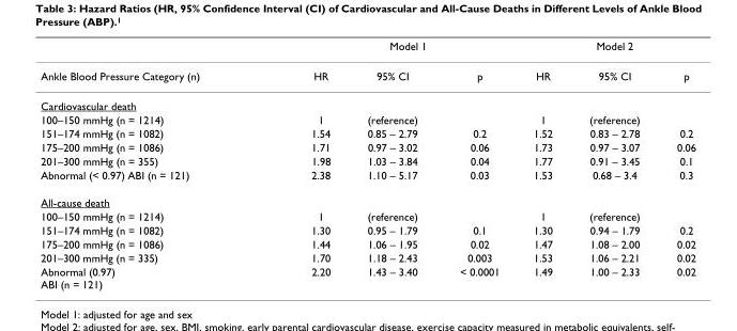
<table><thead><tr><td rowspan="2">Ankle Blood Pressure Category (n)</td><td colspan="3">Model 1</td><td colspan="3">Model 2</td></tr><tr><td>HR</td><td>95% CI</td><td>p</td><td>HR</td><td>95% CI</td><td>p</td></tr></thead><tbody><tr><td colspan="7">Cardiovascular death</td></tr><tr><td>100–150 mmHg (n = 1214)</td><td>1</td><td>(reference)</td><td></td><td>1</td><td>(reference)</td><td></td></tr><tr><td>151–174 mmHg (n = 1082)</td><td>1.54</td><td>0.85 – 2.79</td><td>0.2</td><td>1.52</td><td>0.83 – 2.78</td><td>0.2</td></tr><tr><td>175–200 mmHg (n = 1086)</td><td>1.71</td><td>0.97 – 3.02</td><td>0.06</td><td>1.73</td><td>0.97 – 3.07</td><td>0.06</td></tr><tr><td>201–300 mmHg (n = 355)</td><td>1.98</td><td>1.03 – 3.84</td><td>0.04</td><td>1.77</td><td>0.91 – 3.45</td><td>0.1</td></tr><tr><td>Abnormal (&lt; 0.97) ABI (n = 121)</td><td>2.38</td><td>1.10 – 5.17</td><td>0.03</td><td>1.53</td><td>0.68 – 3.4</td><td>0.3</td></tr><tr><td colspan="7">All-cause death</td></tr><tr><td>100–150 mmHg (n = 1214)</td><td>1</td><td>(reference)</td><td></td><td>1</td><td>(reference)</td><td></td></tr><tr><td>151–174 mmHg (n = 1082)</td><td>1.30</td><td>0.95 – 1.79</td><td>0.1</td><td>1.30</td><td>0.94 – 1.79</td><td>0.2</td></tr><tr><td>175–200 mmHg (n = 1086)</td><td>1.44</td><td>1.06 – 1.95</td><td>0.02</td><td>1.47</td><td>1.08 – 2.00</td><td>0.02</td></tr><tr><td>201–300 mmHg (n = 335)</td><td>1.70</td><td>1.18 – 2.43</td><td>0.003</td><td>1.53</td><td>1.06 – 2.21</td><td>0.02</td></tr><tr><td>Abnormal (0.97) ABI (n = 121)</td><td>2.20</td><td>1.43 – 3.40</td><td>&lt; 0.0001</td><td>1.49</td><td>1.00 – 2.33</td><td>0.02</td></tr></tbody></table>